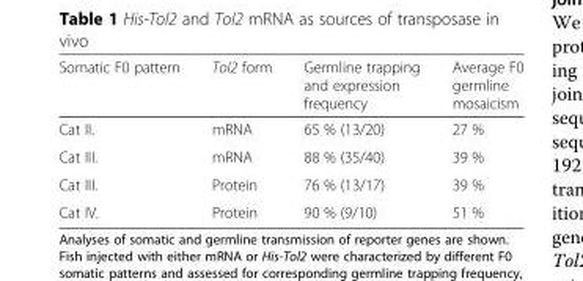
<table><thead><tr><td>Somatic F0 pattern</td><td>Tol2 form</td><td>Germline trapping and expression frequency</td><td>Average F0 germline mosaicism</td></tr></thead><tbody><tr><td>Cat II.</td><td>mRNA</td><td>65 % (13/20)</td><td>27 %</td></tr><tr><td>Cat III.</td><td>mRNA</td><td>88 % (35/40)</td><td>39 %</td></tr><tr><td>Cat III.</td><td>Protein</td><td>76 % (13/17)</td><td>39 %</td></tr><tr><td>Cat IV.</td><td>Protein</td><td>90 % (9/10)</td><td>51 %</td></tr></tbody></table>